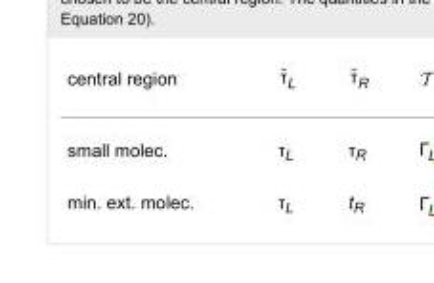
<table><tbody><tr><td colspan="3">central region</td></tr><tr><td>small molec.</td><td>τ<sub>L</sub></td><td>τ<sub>R</sub></td></tr><tr><td>min. ext. molec.</td><td>τ<sub>L</sub></td><td>t<sub>R</sub></td></tr></tbody></table>